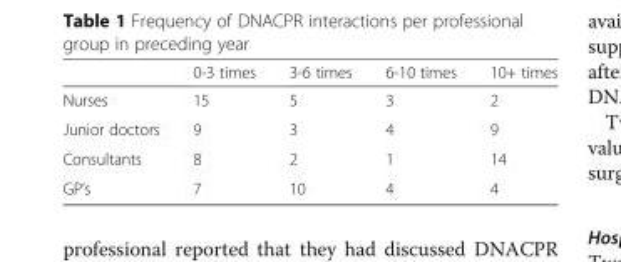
<table><thead><tr><td></td><td>0-3 times</td><td>3-6 times</td><td>6-10 times</td><td>10+ times</td></tr></thead><tbody><tr><td>Nurses</td><td>15</td><td>5</td><td>3</td><td>2</td></tr><tr><td>Junior doctors</td><td>9</td><td>3</td><td>4</td><td>9</td></tr><tr><td>Consultants</td><td>8</td><td>2</td><td>1</td><td>14</td></tr><tr><td>GP’s</td><td>7</td><td>10</td><td>4</td><td>4</td></tr></tbody></table>